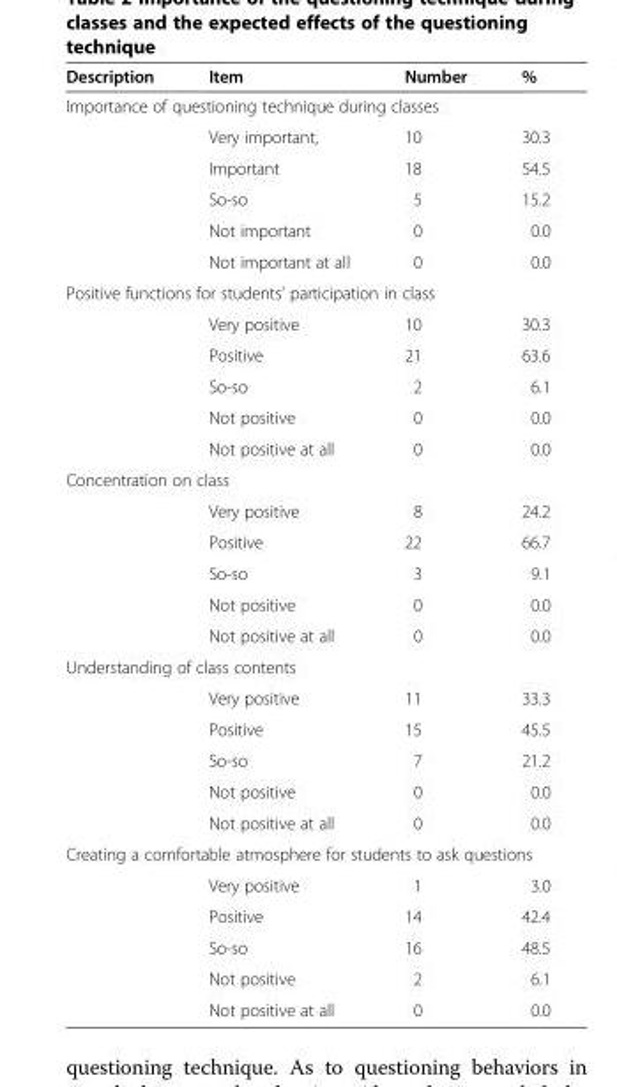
<table><thead><tr><td>Description</td><td>Item</td><td>Number</td><td>%</td></tr></thead><tbody><tr><td colspan="4">Importance of questioning technique during classes</td></tr><tr><td></td><td>Very important,</td><td>10</td><td>30.3</td></tr><tr><td></td><td>Important</td><td>18</td><td>54.5</td></tr><tr><td></td><td>So-so</td><td>5</td><td>15.2</td></tr><tr><td></td><td>Not important</td><td>0</td><td>0.0</td></tr><tr><td></td><td>Not important at all</td><td>0</td><td>0.0</td></tr><tr><td colspan="4">Positive functions for students’ participation in class</td></tr><tr><td></td><td>Very positive</td><td>10</td><td>30.3</td></tr><tr><td></td><td>Positive</td><td>21</td><td>63.6</td></tr><tr><td></td><td>So-so</td><td>2</td><td>6.1</td></tr><tr><td></td><td>Not positive</td><td>0</td><td>0.0</td></tr><tr><td></td><td>Not positive at all</td><td>0</td><td>0.0</td></tr><tr><td colspan="4">Concentration on class</td></tr><tr><td></td><td>Very positive</td><td>8</td><td>24.2</td></tr><tr><td></td><td>Positive</td><td>22</td><td>66.7</td></tr><tr><td></td><td>So-so</td><td>3</td><td>9.1</td></tr><tr><td></td><td>Not positive</td><td>0</td><td>0.0</td></tr><tr><td></td><td>Not positive at all</td><td>0</td><td>0.0</td></tr><tr><td colspan="4">Understanding of class contents</td></tr><tr><td></td><td>Very positive</td><td>11</td><td>33.3</td></tr><tr><td></td><td>Positive</td><td>15</td><td>45.5</td></tr><tr><td></td><td>So-so</td><td>7</td><td>21.2</td></tr><tr><td></td><td>Not positive</td><td>0</td><td>0.0</td></tr><tr><td></td><td>Not positive at all</td><td>0</td><td>0.0</td></tr><tr><td colspan="4">Creating a comfortable atmosphere for students to ask questions</td></tr><tr><td></td><td>Very positive</td><td>1</td><td>3.0</td></tr><tr><td></td><td>Positive</td><td>14</td><td>42.4</td></tr><tr><td></td><td>So-so</td><td>16</td><td>48.5</td></tr><tr><td></td><td>Not positive</td><td>2</td><td>6.1</td></tr><tr><td></td><td>Not positive at all</td><td>0</td><td>0.0</td></tr></tbody></table>